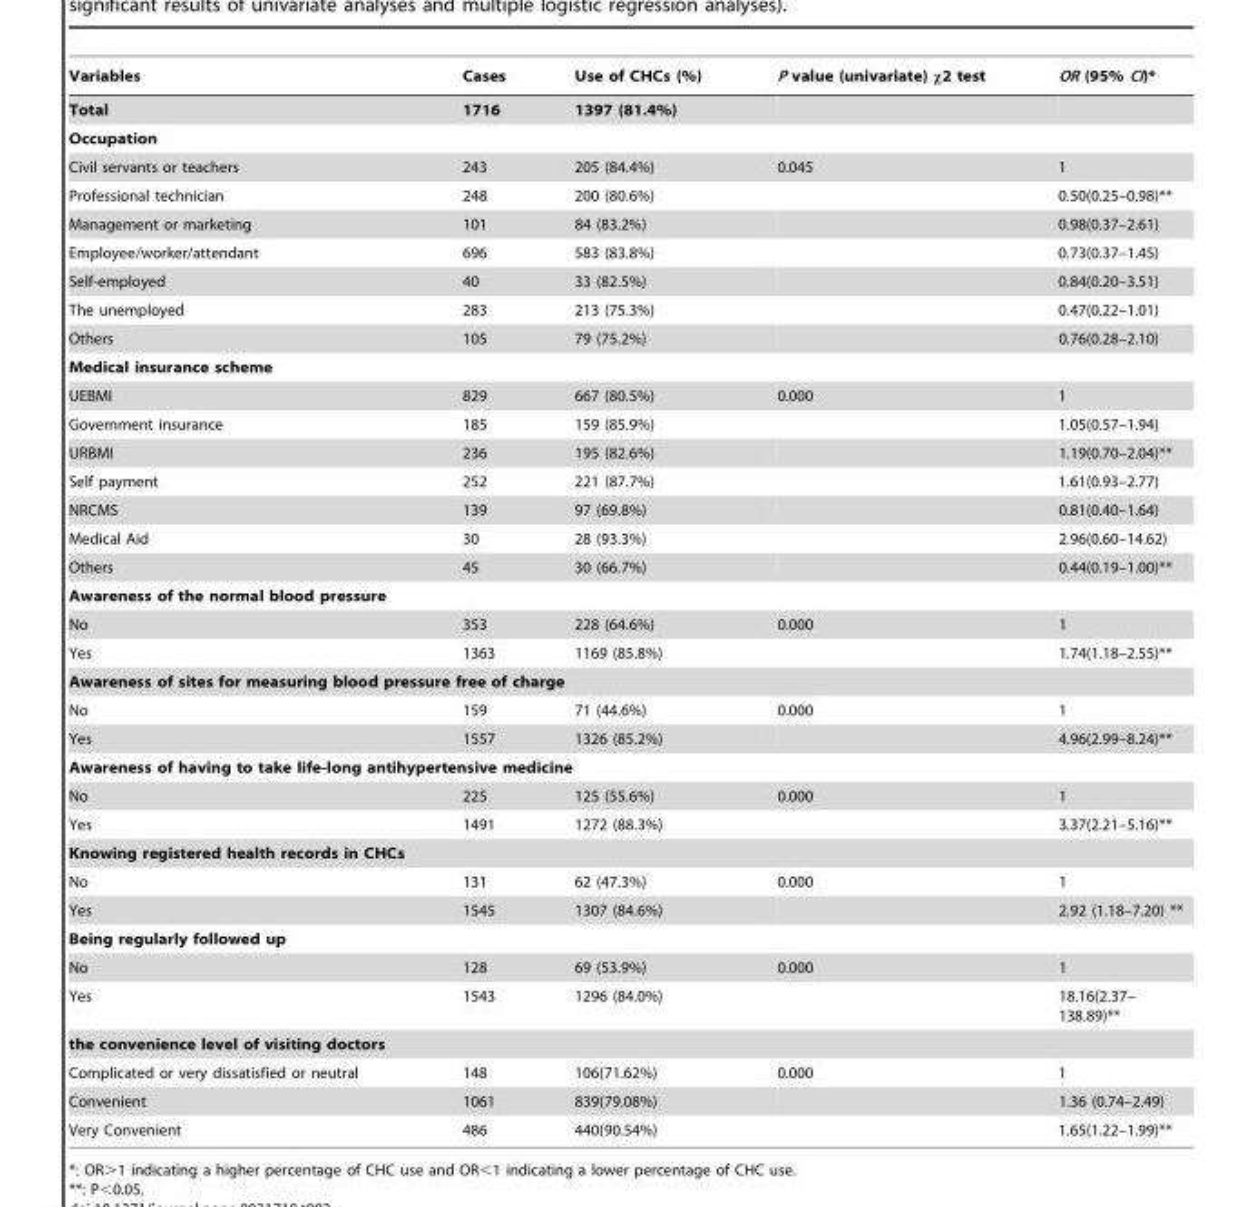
<table><thead><tr><td>Variables</td><td>Cases</td><td>Use of CHCs (%)</td><td>P value (univariate) χ2 test</td><td>OR (95% CI)*</td></tr></thead><tbody><tr><td>Total</td><td>1716</td><td>1397 (81.4%)</td><td></td><td></td></tr><tr><td colspan="5">Occupation</td></tr><tr><td>Civil servants or teachers</td><td>243</td><td>205 (84.4%)</td><td>0.045</td><td>1</td></tr><tr><td>Professional technician</td><td>248</td><td>200 (80.6%)</td><td></td><td>0.50(0.25–0.98)**</td></tr><tr><td>Management or marketing</td><td>101</td><td>84 (83.2%)</td><td></td><td>0.98(0.37–2.61)</td></tr><tr><td>Employee/worker/attendant</td><td>696</td><td>583 (83.8%)</td><td></td><td>0.73(0.37–1.45)</td></tr><tr><td>Self-employed</td><td>40</td><td>33 (82.5%)</td><td></td><td>0.84(0.20–3.51)</td></tr><tr><td>The unemployed</td><td>283</td><td>213 (75.3%)</td><td></td><td>0.47(0.22–1.01)</td></tr><tr><td>Others</td><td>105</td><td>79 (75.2%)</td><td></td><td>0.76(0.28–2.10)</td></tr><tr><td colspan="5">Medical insurance scheme</td></tr><tr><td>UEBMI</td><td>829</td><td>667 (80.5%)</td><td>0.000</td><td>1</td></tr><tr><td>Government insurance</td><td>185</td><td>159 (85.9%)</td><td></td><td>1.05(0.57–1.94)</td></tr><tr><td>URBMI</td><td>236</td><td>195 (82.6%)</td><td></td><td>1.19(0.70–2.04)**</td></tr><tr><td>Self payment</td><td>252</td><td>221 (87.7%)</td><td></td><td>1.61(0.93–2.77)</td></tr><tr><td>NRCMS</td><td>139</td><td>97 (69.8%)</td><td></td><td>0.81(0.40–1.64)</td></tr><tr><td>Medical Aid</td><td>30</td><td>28 (93.3%)</td><td></td><td>2.96(0.60–14.62)</td></tr><tr><td>Others</td><td>45</td><td>30 (66.7%)</td><td></td><td>0.44(0.19–1.00)**</td></tr><tr><td colspan="5">Awareness of the normal blood pressure</td></tr><tr><td>No</td><td>353</td><td>228 (64.6%)</td><td>0.000</td><td>1</td></tr><tr><td>Yes</td><td>1363</td><td>1169 (85.8%)</td><td></td><td>1.74(1.18–2.55)**</td></tr><tr><td colspan="5">Awareness of sites for measuring blood pressure free of charge</td></tr><tr><td>No</td><td>159</td><td>71 (44.6%)</td><td>0.000</td><td>1</td></tr><tr><td>Yes</td><td>1557</td><td>1326 (85.2%)</td><td></td><td>4.96(2.99–8.24)**</td></tr><tr><td colspan="5">Awareness of having to take life-long antihypertensive medicine</td></tr><tr><td>No</td><td>225</td><td>125 (55.6%)</td><td>0.000</td><td>1</td></tr><tr><td>Yes</td><td>1491</td><td>1272 (88.3%)</td><td></td><td>3.37(2.21–5.16)**</td></tr><tr><td colspan="5">Knowing registered health records in CHCs</td></tr><tr><td>No</td><td>131</td><td>62 (47.3%)</td><td>0.000</td><td>1</td></tr><tr><td>Yes</td><td>1545</td><td>1307 (84.6%)</td><td></td><td>2.92 (1.18–7.20) **</td></tr><tr><td colspan="5">Being regularly followed up</td></tr><tr><td>No</td><td>128</td><td>69 (53.9%)</td><td>0.000</td><td>1</td></tr><tr><td>Yes</td><td>1543</td><td>1296 (84.0%)</td><td></td><td>18.16(2.37– 138.89)**</td></tr><tr><td colspan="5">the convenience level of visiting doctors</td></tr><tr><td>Complicated or very dissatisfied or neutral</td><td>148</td><td>106(71.62%)</td><td>0.000</td><td>1</td></tr><tr><td>Convenient</td><td>1061</td><td>839(79.08%)</td><td></td><td>1.36 (0.74–2.49)</td></tr><tr><td>Very Convenient</td><td>486</td><td>440(90.54%)</td><td></td><td>1.65(1.22–1.99)**</td></tr></tbody></table>